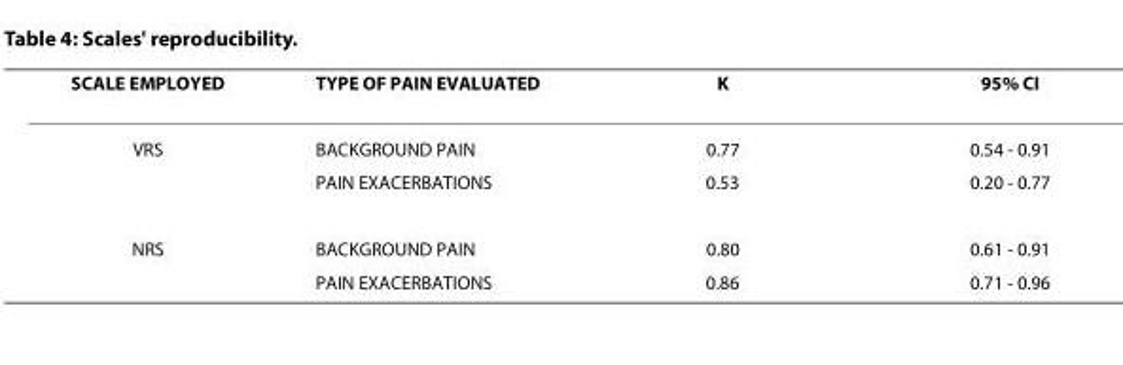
<table><thead><tr><td>SCALE EMPLOYED</td><td>TYPE OF PAIN EVALUATED</td><td>K</td><td>95% CI</td></tr></thead><tbody><tr><td rowspan="2">VRS</td><td>BACKGROUND PAIN</td><td>0.77</td><td>0.54 - 0.91</td></tr><tr><td>PAIN EXACERBATIONS</td><td>0.53</td><td>0.20 - 0.77</td></tr><tr><td rowspan="2">NRS</td><td>BACKGROUND PAIN</td><td>0.80</td><td>0.61 - 0.91</td></tr><tr><td>PAIN EXACERBATIONS</td><td>0.86</td><td>0.71 - 0.96</td></tr></tbody></table>